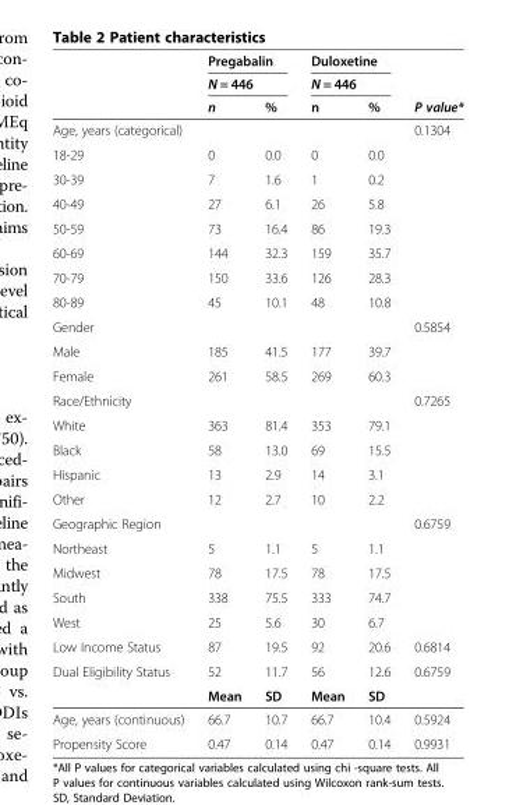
<table><thead><tr><td rowspan="3"></td><td rowspan="2" colspan="2">Pregabalin N = 446</td><td rowspan="2" colspan="2">Duloxetine N = 446</td><td rowspan="3">P value*</td></tr><tr></tr><tr><td>n</td><td>%</td><td>n</td><td>%</td></tr></thead><tbody><tr><td>Age, years (categorical)</td><td></td><td></td><td></td><td></td><td>0.1304</td></tr><tr><td>18-29</td><td>0</td><td>0.0</td><td>0</td><td>0.0</td><td rowspan="7"></td></tr><tr><td>30-39</td><td>7</td><td>1.6</td><td>1</td><td>0.2</td></tr><tr><td>40-49</td><td>27</td><td>6.1</td><td>26</td><td>5.8</td></tr><tr><td>50-59</td><td>73</td><td>16.4</td><td>86</td><td>19.3</td></tr><tr><td>60-69</td><td>144</td><td>32.3</td><td>159</td><td>35.7</td></tr><tr><td>70-79</td><td>150</td><td>33.6</td><td>126</td><td>28.3</td></tr><tr><td>80-89</td><td>45</td><td>10.1</td><td>48</td><td>10.8</td></tr><tr><td>Gender</td><td></td><td></td><td></td><td></td><td>0.5854</td></tr><tr><td>Male</td><td>185</td><td>41.5</td><td>177</td><td>39.7</td><td rowspan="2"></td></tr><tr><td>Female</td><td>261</td><td>58.5</td><td>269</td><td>60.3</td></tr><tr><td>Race/Ethnicity</td><td></td><td></td><td></td><td></td><td>0.7265</td></tr><tr><td>White</td><td>363</td><td>81.4</td><td>353</td><td>79.1</td><td rowspan="4"></td></tr><tr><td>Black</td><td>58</td><td>13.0</td><td>69</td><td>15.5</td></tr><tr><td>Hispanic</td><td>13</td><td>2.9</td><td>14</td><td>3.1</td></tr><tr><td>Other</td><td>12</td><td>2.7</td><td>10</td><td>2.2</td></tr><tr><td>Geographic Region</td><td></td><td></td><td></td><td></td><td>0.6759</td></tr><tr><td>Northeast</td><td>5</td><td>1.1</td><td>5</td><td>1.1</td><td rowspan="4"></td></tr><tr><td>Midwest</td><td>78</td><td>17.5</td><td>78</td><td>17.5</td></tr><tr><td>South</td><td>338</td><td>75.5</td><td>333</td><td>74.7</td></tr><tr><td>West</td><td>25</td><td>5.6</td><td>30</td><td>6.7</td></tr><tr><td>Low Income Status</td><td>87</td><td>19.5</td><td>92</td><td>20.6</td><td>0.6814</td></tr><tr><td rowspan="2">Dual Eligibility Status</td><td>52</td><td>11.7</td><td>56</td><td>12.6</td><td>0.6759</td></tr><tr><td>Mean</td><td>SD</td><td>Mean</td><td>SD</td><td></td></tr><tr><td>Age, years (continuous)</td><td>66.7</td><td>10.7</td><td>66.7</td><td>10.4</td><td>0.5924</td></tr><tr><td>Propensity Score</td><td>0.47</td><td>0.14</td><td>0.47</td><td>0.14</td><td>0.9931</td></tr></tbody></table>